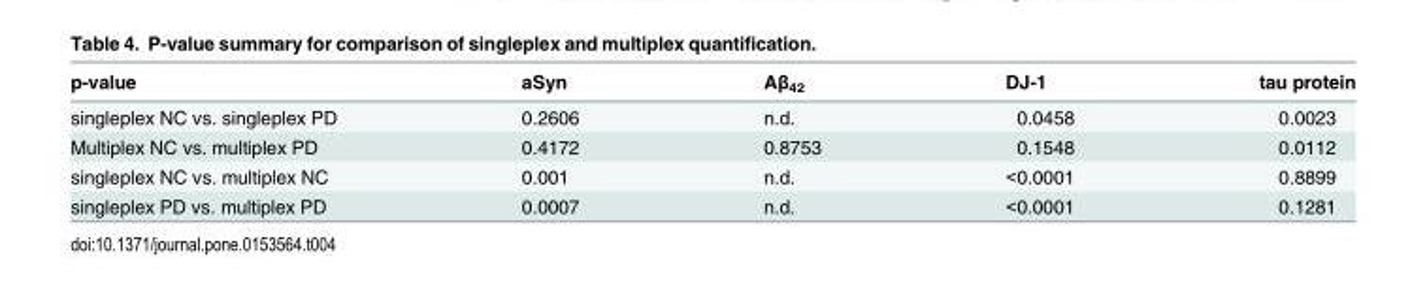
<table><thead><tr><td>p-value</td><td>aSyn</td><td>Aβ<sub>42</sub></td><td>DJ-1</td><td>tau protein</td></tr></thead><tbody><tr><td>singleplex NC vs. singleplex PD</td><td>0.2606</td><td>n.d.</td><td>0.0458</td><td>0.0023</td></tr><tr><td>Multiplex NC vs. multiplex PD</td><td>0.4172</td><td>0.8753</td><td>0.1548</td><td>0.0112</td></tr><tr><td>singleplex NC vs. multiplex NC</td><td>0.001</td><td>n.d.</td><td>&lt;0.0001</td><td>0.8899</td></tr><tr><td>singleplex PD vs. multiplex PD</td><td>0.0007</td><td>n.d.</td><td>&lt;0.0001</td><td>0.1281</td></tr></tbody></table>